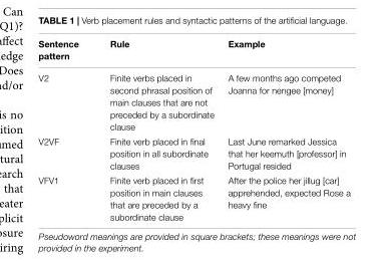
<table><thead><tr><td>Sentence pattern</td><td>Rule</td><td>Example</td></tr></thead><tbody><tr><td>V2</td><td>Finite verbs placed in second phrasal position of main clauses that are not preceded by a subordinate clause</td><td>A few months ago competed Joanna for nengee [money]</td></tr><tr><td>V2VF</td><td>Finite verb placed in final position in all subordinate clauses</td><td>Last June remarked Jessica that her keemuth [professor] in Portugal resided</td></tr><tr><td>VFV1</td><td>Finite verb placed in first position in main clauses that are preceded by a subordinate clause</td><td>After the police her jillug [car] apprehended, expected Rose a heavy fine</td></tr></tbody></table>